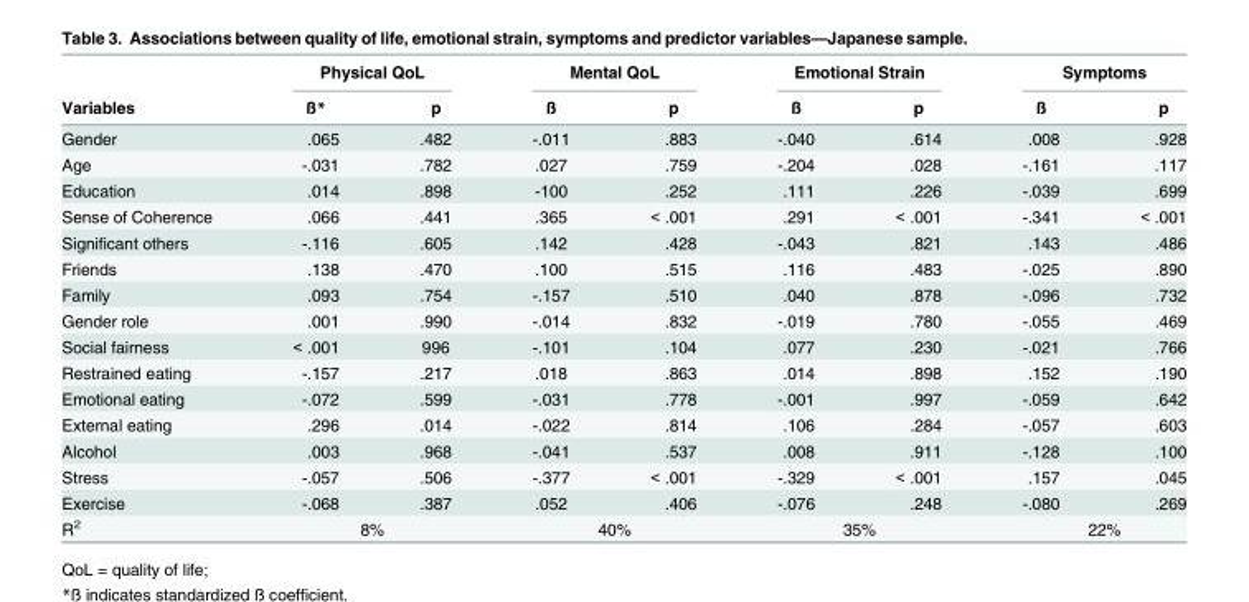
<table><thead><tr><td rowspan="2">Variables</td><td colspan="2">Physical QoL</td><td colspan="2">Mental QoL</td><td colspan="2">Emotional Strain</td><td colspan="2">Symptoms</td></tr><tr><td>ß*</td><td>p</td><td>ß</td><td>p</td><td>ß</td><td>p</td><td>ß</td><td>p</td></tr></thead><tbody><tr><td>Gender</td><td>.065</td><td>.482</td><td>-.011</td><td>.883</td><td>-.040</td><td>.614</td><td>.008</td><td>.928</td></tr><tr><td>Age</td><td>-.031</td><td>.782</td><td>.027</td><td>.759</td><td>-.204</td><td>.028</td><td>-.161</td><td>.117</td></tr><tr><td>Education</td><td>.014</td><td>.898</td><td>-100</td><td>.252</td><td>.111</td><td>.226</td><td>-.039</td><td>.699</td></tr><tr><td>Sense of Coherence</td><td>.066</td><td>.441</td><td>.365</td><td>&lt; .001</td><td>.291</td><td>&lt; .001</td><td>-.341</td><td>&lt; .001</td></tr><tr><td>Significant others</td><td>-.116</td><td>.605</td><td>.142</td><td>.428</td><td>-.043</td><td>.821</td><td>.143</td><td>.486</td></tr><tr><td>Friends</td><td>.138</td><td>.470</td><td>.100</td><td>.515</td><td>.116</td><td>.483</td><td>-.025</td><td>.890</td></tr><tr><td>Family</td><td>.093</td><td>.754</td><td>-.157</td><td>.510</td><td>.040</td><td>.878</td><td>-.096</td><td>.732</td></tr><tr><td>Gender role</td><td>.001</td><td>.990</td><td>-.014</td><td>.832</td><td>-.019</td><td>.780</td><td>-.055</td><td>.469</td></tr><tr><td>Social fairness</td><td>&lt; .001</td><td>996</td><td>-.101</td><td>.104</td><td>.077</td><td>.230</td><td>-.021</td><td>.766</td></tr><tr><td>Restrained eating</td><td>-.157</td><td>.217</td><td>.018</td><td>.863</td><td>.014</td><td>.898</td><td>.152</td><td>.190</td></tr><tr><td>Emotional eating</td><td>-.072</td><td>.599</td><td>-.031</td><td>.778</td><td>-.001</td><td>.997</td><td>-.059</td><td>.642</td></tr><tr><td>External eating</td><td>.296</td><td>.014</td><td>-.022</td><td>.814</td><td>.106</td><td>.284</td><td>-.057</td><td>.603</td></tr><tr><td>Alcohol</td><td>.003</td><td>.968</td><td>-.041</td><td>.537</td><td>.008</td><td>.911</td><td>-.128</td><td>.100</td></tr><tr><td>Stress</td><td>-.057</td><td>.506</td><td>-.377</td><td>&lt; .001</td><td>-.329</td><td>&lt; .001</td><td>.157</td><td>.045</td></tr><tr><td>Exercise</td><td>-.068</td><td>.387</td><td>.052</td><td>.406</td><td>-.076</td><td>.248</td><td>-.080</td><td>.269</td></tr><tr><td>R<sup>2</sup></td><td colspan="2">8%</td><td colspan="2">40%</td><td colspan="2">35%</td><td colspan="2">22%</td></tr></tbody></table>